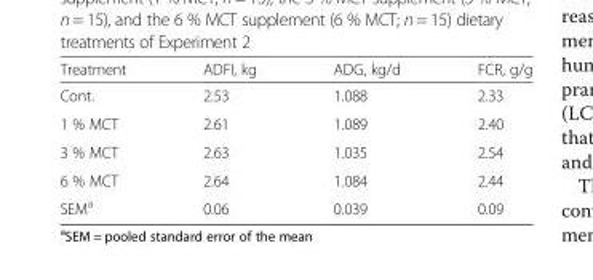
<table><thead><tr><td>Treatment</td><td>ADFI, kg</td><td>ADG, kg/d</td><td>FCR, g/g</td></tr></thead><tbody><tr><td>Cont.</td><td>2.53</td><td>1.088</td><td>2.33</td></tr><tr><td>1 % MCT</td><td>2.61</td><td>1.089</td><td>2.40</td></tr><tr><td>3 % MCT</td><td>2.63</td><td>1.035</td><td>2.54</td></tr><tr><td>6 % MCT</td><td>2.64</td><td>1.084</td><td>2.44</td></tr><tr><td>SEM<sup>a</sup></td><td>0.06</td><td>0.039</td><td>0.09</td></tr></tbody></table>